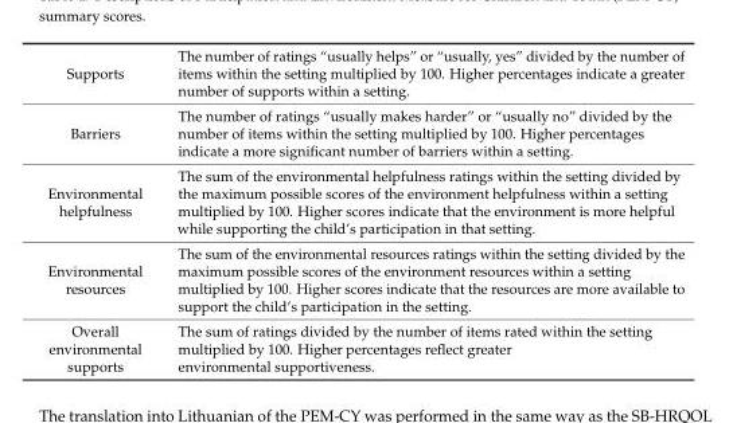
<table><tbody><tr><td>Supports</td><td>The number of ratings “usually helps” or “usually, yes” divided by the number of items within the setting multiplied by 100. Higher percentages indicate a greater number of supports within a setting.</td></tr><tr><td>Barriers</td><td>The number of ratings “usually makes harder” or “usually no” divided by the number of items within the setting multiplied by 100. Higher percentages indicate a more significant number of barriers within a setting.</td></tr><tr><td>Environmental helpfulness</td><td>The sum of the environmental helpfulness ratings within the setting divided by the maximum possible scores of the environment helpfulness within a setting multiplied by 100. Higher scores indicate that the environment is more helpful while supporting the child’s participation in that setting.</td></tr><tr><td>Environmental resources</td><td>The sum of the environmental resources ratings within the setting divided by the maximum possible scores of the environment resources within a setting multiplied by 100. Higher scores indicate that the resources are more available to support the child’s participation in the setting.</td></tr><tr><td>Overall environmental supports</td><td>The sum of ratings divided by the number of items rated within the setting multiplied by 100. Higher percentages reflect greater environmental supportiveness.</td></tr></tbody></table>